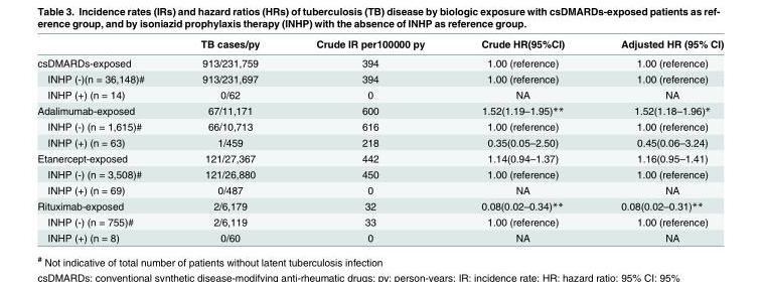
<table><thead><tr><td></td><td>TB cases/py</td><td>Crude IR per100000 py</td><td>Crude HR(95%CI)</td><td>Adjusted HR (95% CI)</td></tr></thead><tbody><tr><td>csDMARDs-exposed</td><td>913/231,759</td><td>394</td><td>1.00 (reference)</td><td>1.00 (reference)</td></tr><tr><td>INHP (-)(n = 36,148)#</td><td>913/231,697</td><td>394</td><td>1.00 (reference)</td><td>1.00 (reference)</td></tr><tr><td>INHP (+) (n = 14)</td><td>0/62</td><td>0</td><td>NA</td><td>NA</td></tr><tr><td>Adalimumab-exposed</td><td>67/11,171</td><td>600</td><td>1.52(1.19–1.95)**</td><td>1.52(1.18–1.96)*</td></tr><tr><td>INHP (-) (n = 1,615)#</td><td>66/10,713</td><td>616</td><td>1.00 (reference)</td><td>1.00 (reference)</td></tr><tr><td>INHP (+) (n = 63)</td><td>1/459</td><td>218</td><td>0.35(0.05–2.50)</td><td>0.45(0.06–3.24)</td></tr><tr><td>Etanercept-exposed</td><td>121/27,367</td><td>442</td><td>1.14(0.94–1.37)</td><td>1.16(0.95–1.41)</td></tr><tr><td>INHP (-) (n = 3,508)#</td><td>121/26,880</td><td>450</td><td>1.00 (reference)</td><td>1.00 (reference)</td></tr><tr><td>INHP (+) (n = 69)</td><td>0/487</td><td>0</td><td>NA</td><td>NA</td></tr><tr><td>Rituximab-exposed</td><td>2/6,179</td><td>32</td><td>0.08(0.02–0.34)**</td><td>0.08(0.02–0.31)**</td></tr><tr><td>INHP (-) (n = 755)#</td><td>2/6,119</td><td>33</td><td>1.00 (reference)</td><td>1.00 (reference)</td></tr><tr><td>INHP (+) (n = 8)</td><td>0/60</td><td>0</td><td>NA</td><td>NA</td></tr></tbody></table>